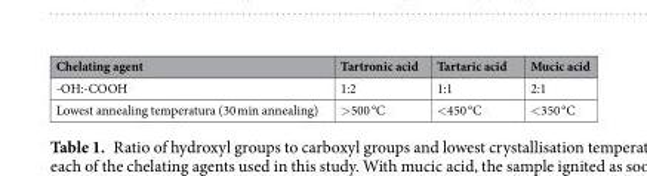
<table><thead><tr><td>Chelating agent</td><td>Tartronic acid</td><td>Tartaric acid</td><td>Mucic acid</td></tr></thead><tbody><tr><td>-OH:-COOH</td><td>1:2</td><td>1:1</td><td>2:1</td></tr><tr><td>Lowest annealing temperatura (30 min annealing)</td><td>&gt;500 °C</td><td>&lt;450 °C</td><td>&lt;350 °C</td></tr></tbody></table>